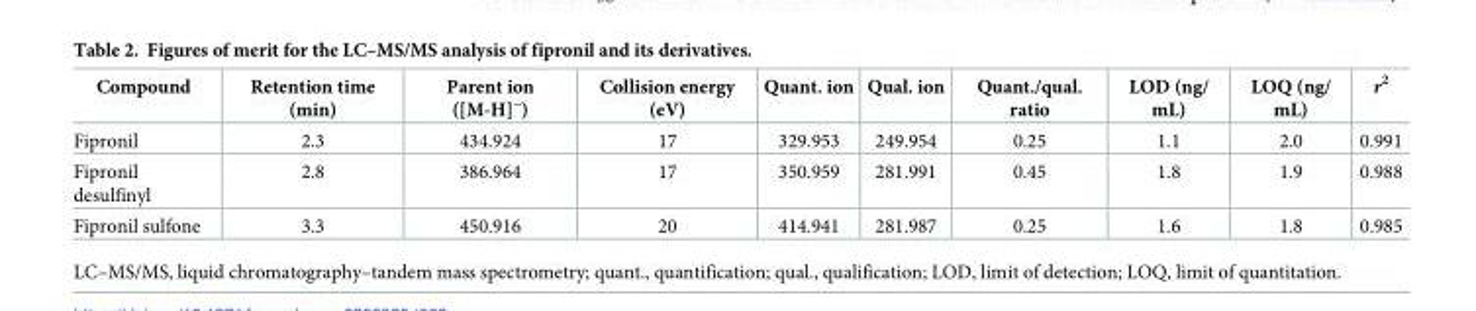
<table><thead><tr><td>Compound</td><td>Retention time (min)</td><td>Parent ion ([M-H]<sup>−</sup>)</td><td>Collision energy (eV)</td><td>Quant. ion</td><td>Qual. ion</td><td>Quant./qual. ratio</td><td>LOD (ng/ mL)</td><td>LOQ (ng/ mL)</td><td>r<sup>2</sup></td></tr></thead><tbody><tr><td>Fipronil</td><td>2.3</td><td>434.924</td><td>17</td><td>329.953</td><td>249.954</td><td>0.25</td><td>1.1</td><td>2.0</td><td>0.991</td></tr><tr><td>Fipronil desulfinyl</td><td>2.8</td><td>386.964</td><td>17</td><td>350.959</td><td>281.991</td><td>0.45</td><td>1.8</td><td>1.9</td><td>0.988</td></tr><tr><td>Fipronil sulfone</td><td>3.3</td><td>450.916</td><td>20</td><td>414.941</td><td>281.987</td><td>0.25</td><td>1.6</td><td>1.8</td><td>0.985</td></tr></tbody></table>